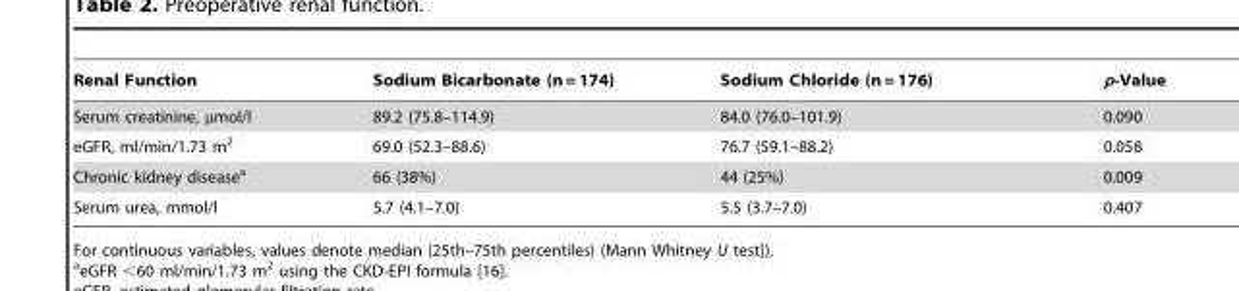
<table><thead><tr><td>Renal Function</td><td>Sodium Bicarbonate (n = 174)</td><td>Sodium Chloride (n = 176)</td><td>p-Value</td></tr></thead><tbody><tr><td>Serum creatinine, µmol/l</td><td>89.2 (75.8–114.9)</td><td>84.0 (76.0–101.9)</td><td>0.090</td></tr><tr><td>eGFR, ml/min/1.73 m<sup>2</sup></td><td>69.0 (52.3–88.6)</td><td>76.7 (59.1–88.2)</td><td>0.058</td></tr><tr><td>Chronic kidney disease<sup>a</sup></td><td>66 (38%)</td><td>44 (25%)</td><td>0.009</td></tr><tr><td>Serum urea, mmol/l</td><td>5.7 (4.1–7.0)</td><td>5.5 (3.7–7.0)</td><td>0.407</td></tr></tbody></table>